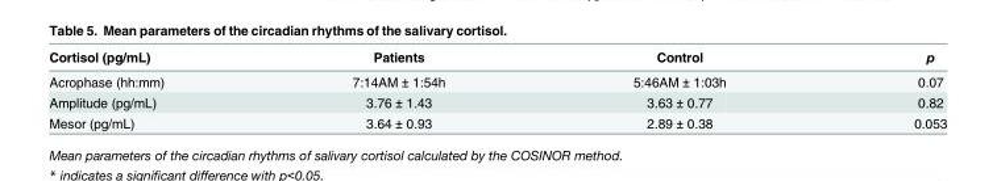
<table><thead><tr><td>Cortisol (pg/mL)</td><td>Patients</td><td>Control</td><td>p</td></tr></thead><tbody><tr><td>Acrophase (hh:mm)</td><td>7:14AM ± 1:54h</td><td>5:46AM ± 1:03h</td><td>0.07</td></tr><tr><td>Amplitude (pg/mL)</td><td>3.76 ± 1.43</td><td>3.63 ± 0.77</td><td>0.82</td></tr><tr><td>Mesor (pg/mL)</td><td>3.64 ± 0.93</td><td>2.89 ± 0.38</td><td>0.053</td></tr></tbody></table>